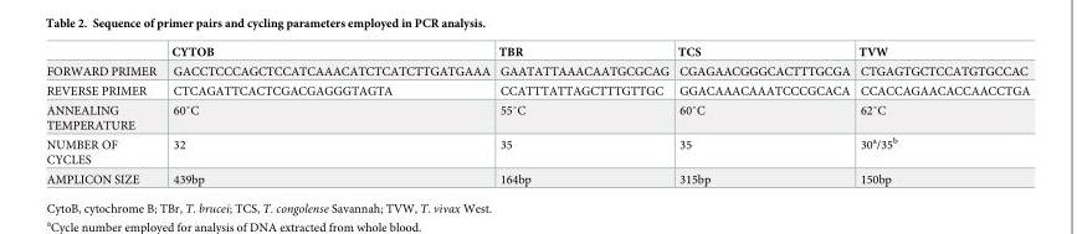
<table><thead><tr><td></td><td>CYTOB</td><td>TBR</td><td>TCS</td><td>TVW</td></tr></thead><tbody><tr><td>FORWARD PRIMER</td><td>GACCTCCCAGCTCCATCAAACATCTCATCTTGATGAAA</td><td>GAATATTAAACAATGCGCAG</td><td>CGAGAACGGGCACTTTGCGA</td><td>CTGAGTGCTCCATGTGCCAC</td></tr><tr><td>REVERSE PRIMER</td><td>CTCAGATTCACTCGACGAGGGTAGTA</td><td>CCATTTATTAGCTTTGTTGC</td><td>GGACAAACAAATCCCGCACA</td><td>CCACCAGAACACCAACCTGA</td></tr><tr><td>ANNEALING TEMPERATURE</td><td>60˚C</td><td>55˚C</td><td>60˚C</td><td>62˚C</td></tr><tr><td>NUMBER OF CYCLES</td><td>32</td><td>35</td><td>35</td><td>30<sup>a</sup>/35<sup>b</sup></td></tr><tr><td>AMPLICON SIZE</td><td>439bp</td><td>164bp</td><td>315bp</td><td>150bp</td></tr></tbody></table>